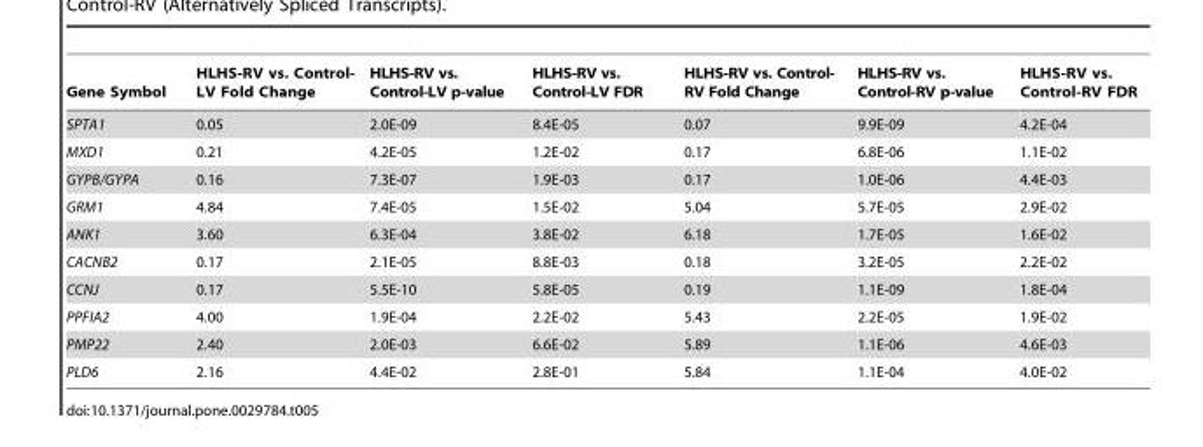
<table><thead><tr><td>Gene Symbol</td><td>HLHS-RV vs. Control- LV Fold Change</td><td>HLHS-RV vs. Control-LV p-value</td><td>HLHS-RV vs. Control-LV FDR</td><td>HLHS-RV vs. Control- RV Fold Change</td><td>HLHS-RV vs. Control-RV p-value</td><td>HLHS-RV vs. Control-RV FDR</td></tr></thead><tbody><tr><td>SPTA1</td><td>0.05</td><td>2.0E-09</td><td>8.4E-05</td><td>0.07</td><td>9.9E-09</td><td>4.2E-04</td></tr><tr><td>MXD1</td><td>0.21</td><td>4.2E-05</td><td>1.2E-02</td><td>0.17</td><td>6.8E-06</td><td>1.1E-02</td></tr><tr><td>GYPB/GYPA</td><td>0.16</td><td>7.3E-07</td><td>1.9E-03</td><td>0.17</td><td>1.0E-06</td><td>4.4E-03</td></tr><tr><td>GRM1</td><td>4.84</td><td>7.4E-05</td><td>1.5E-02</td><td>5.04</td><td>5.7E-05</td><td>2.9E-02</td></tr><tr><td>ANK1</td><td>3.60</td><td>6.3E-04</td><td>3.8E-02</td><td>6.18</td><td>1.7E-05</td><td>1.6E-02</td></tr><tr><td>CACNB2</td><td>0.17</td><td>2.1E-05</td><td>8.8E-03</td><td>0.18</td><td>3.2E-05</td><td>2.2E-02</td></tr><tr><td>CCNJ</td><td>0.17</td><td>5.5E-10</td><td>5.8E-05</td><td>0.19</td><td>1.1E-09</td><td>1.8E-04</td></tr><tr><td>PPFIA2</td><td>4.00</td><td>1.9E-04</td><td>2.2E-02</td><td>5.43</td><td>2.2E-05</td><td>1.9E-02</td></tr><tr><td>PMP22</td><td>2.40</td><td>2.0E-03</td><td>6.6E-02</td><td>5.89</td><td>1.1E-06</td><td>4.6E-03</td></tr><tr><td>PLD6</td><td>2.16</td><td>4.4E-02</td><td>2.8E-01</td><td>5.84</td><td>1.1E-04</td><td>4.0E-02</td></tr></tbody></table>